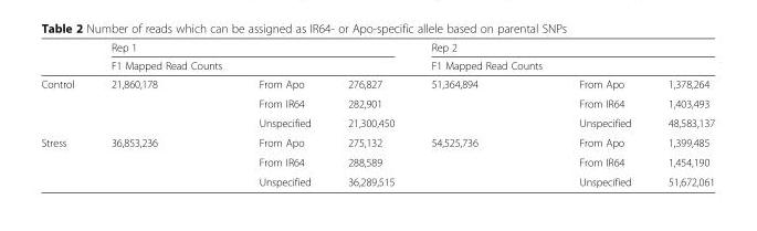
<table><thead><tr><td rowspan="2"></td><td colspan="3">Rep 1</td><td colspan="3">Rep 2</td></tr><tr><td>F1 Mapped Read Counts</td><td></td><td></td><td>F1 Mapped Read Counts</td><td></td><td></td></tr></thead><tbody><tr><td rowspan="3">Control</td><td rowspan="3">21,860,178</td><td>From Apo</td><td>276,827</td><td rowspan="3">51,364,894</td><td>From Apo</td><td>1,378,264</td></tr><tr><td>From IR64</td><td>282,901</td><td>From IR64</td><td>1,403,493</td></tr><tr><td>Unspecified</td><td>21,300,450</td><td>Unspecified</td><td>48,583,137</td></tr><tr><td rowspan="3">Stress</td><td rowspan="3">36,853,236</td><td>From Apo</td><td>275,132</td><td rowspan="3">54,525,736</td><td>From Apo</td><td>1,399,485</td></tr><tr><td>From IR64</td><td>288,589</td><td>From IR64</td><td>1,454,190</td></tr><tr><td>Unspecified</td><td>36,289,515</td><td>Unspecified</td><td>51,672,061</td></tr></tbody></table>